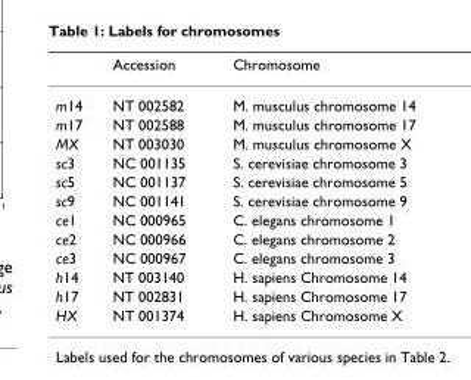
<table><thead><tr><td></td><td>Accession</td><td>Chromosome</td></tr></thead><tbody><tr><td>m14</td><td>NT 002582</td><td>M. musculus chromosome 14</td></tr><tr><td>m17</td><td>NT 002588</td><td>M. musculus chromosome 17</td></tr><tr><td>MX</td><td>NT 003030</td><td>M. musculus chromosome X</td></tr><tr><td>sc3</td><td>NC 001135</td><td>S. cerevisiae chromosome 3</td></tr><tr><td>sc5</td><td>NC 001137</td><td>S. cerevisiae chromosome 5</td></tr><tr><td>sc9</td><td>NC 001141</td><td>S. cerevisiae chromosome 9</td></tr><tr><td>ce1</td><td>NC 000965</td><td>C. elegans chromosome 1</td></tr><tr><td>ce2</td><td>NC 000966</td><td>C. elegans chromosome 2</td></tr><tr><td>ce3</td><td>NC 000967</td><td>C. elegans chromosome 3</td></tr><tr><td>h14</td><td>NT 003140</td><td>H. sapiens Chromosome 14</td></tr><tr><td>h17</td><td>NT 002831</td><td>H. sapiens Chromosome 17</td></tr><tr><td>HX</td><td>NT 001374</td><td>H. sapiens Chromosome X</td></tr></tbody></table>